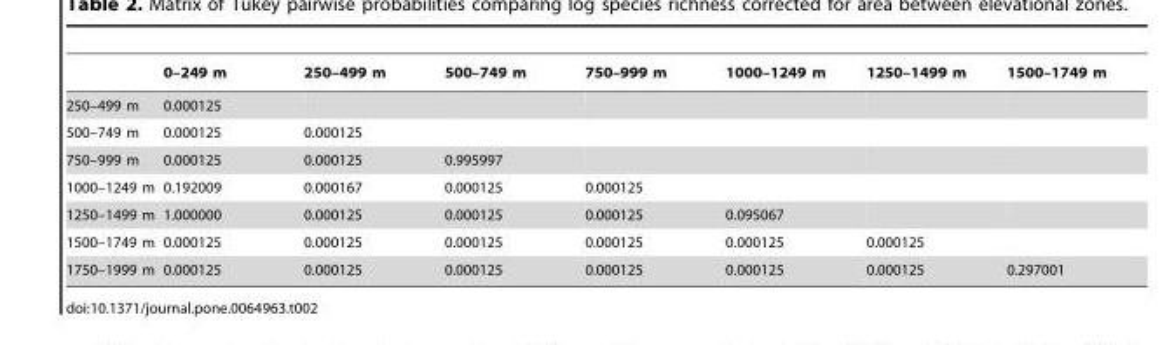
<table><thead><tr><td></td><td>0–249 m</td><td>250–499 m</td><td>500–749 m</td><td>750–999 m</td><td>1000–1249 m</td><td>1250–1499 m</td><td>1500–1749 m</td></tr></thead><tbody><tr><td>250–499 m</td><td>0.000125</td><td></td><td></td><td></td><td></td><td></td><td></td></tr><tr><td>500–749 m</td><td>0.000125</td><td>0.000125</td><td></td><td></td><td></td><td></td><td></td></tr><tr><td>750–999 m</td><td>0.000125</td><td>0.000125</td><td>0.995997</td><td></td><td></td><td></td><td></td></tr><tr><td>1000–1249 m</td><td>0.192009</td><td>0.000167</td><td>0.000125</td><td>0.000125</td><td></td><td></td><td></td></tr><tr><td>1250–1499 m</td><td>1.000000</td><td>0.000125</td><td>0.000125</td><td>0.000125</td><td>0.095067</td><td></td><td></td></tr><tr><td>1500–1749 m</td><td>0.000125</td><td>0.000125</td><td>0.000125</td><td>0.000125</td><td>0.000125</td><td>0.000125</td><td></td></tr><tr><td>1750–1999 m</td><td>0.000125</td><td>0.000125</td><td>0.000125</td><td>0.000125</td><td>0.000125</td><td>0.000125</td><td>0.297001</td></tr></tbody></table>